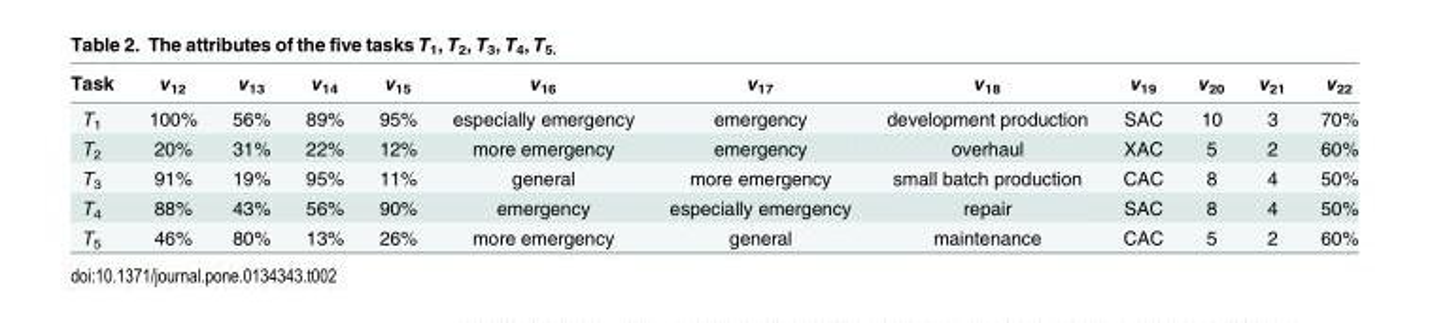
<table><thead><tr><td>Task</td><td>v<sub>12</sub></td><td>v<sub>13</sub></td><td>v<sub>14</sub></td><td>v<sub>15</sub></td><td>v<sub>16</sub></td><td>v<sub>17</sub></td><td>v<sub>18</sub></td><td>v<sub>19</sub></td><td>v<sub>20</sub></td><td>v<sub>21</sub></td><td>v<sub>22</sub></td></tr></thead><tbody><tr><td>T<sub>1</sub></td><td>100%</td><td>56%</td><td>89%</td><td>95%</td><td>especially emergency</td><td>emergency</td><td>development production</td><td>SAC</td><td>10</td><td>3</td><td>70%</td></tr><tr><td>T<sub>2</sub></td><td>20%</td><td>31%</td><td>22%</td><td>12%</td><td>more emergency</td><td>emergency</td><td>overhaul</td><td>XAC</td><td>5</td><td>2</td><td>60%</td></tr><tr><td>T<sub>3</sub></td><td>91%</td><td>19%</td><td>95%</td><td>11%</td><td>general</td><td>more emergency</td><td>small batch production</td><td>CAC</td><td>8</td><td>4</td><td>50%</td></tr><tr><td>T<sub>4</sub></td><td>88%</td><td>43%</td><td>56%</td><td>90%</td><td>emergency</td><td>especially emergency</td><td>repair</td><td>SAC</td><td>8</td><td>4</td><td>50%</td></tr><tr><td>T<sub>5</sub></td><td>46%</td><td>80%</td><td>13%</td><td>26%</td><td>more emergency</td><td>general</td><td>maintenance</td><td>CAC</td><td>5</td><td>2</td><td>60%</td></tr></tbody></table>